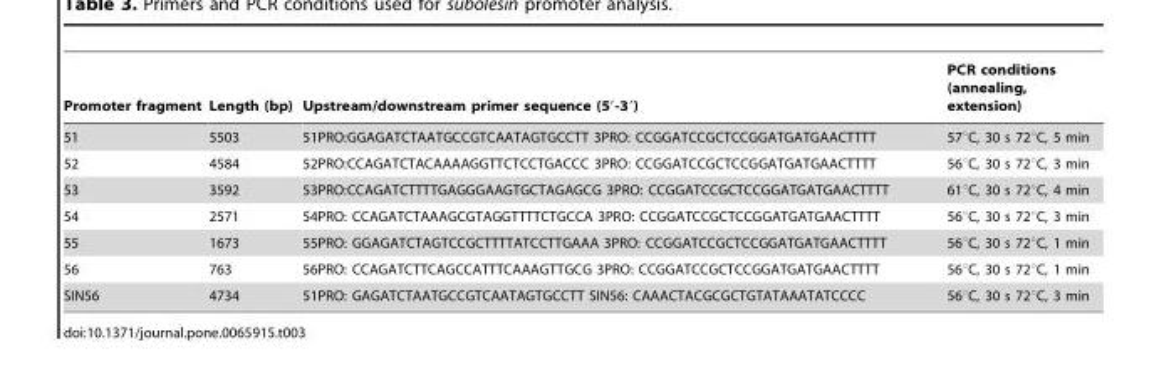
<table><thead><tr><td>Promoter fragment</td><td>Length (bp)</td><td>Upstream/downstream primer sequence (5′-3′)</td><td>PCR conditions (annealing, extension)</td></tr></thead><tbody><tr><td>51</td><td>5503</td><td>51PRO:GGAGATCTAATGCCGTCAATAGTGCCTT 3PRO: CCGGATCCGCTCCGGATGATGAACTTTT</td><td>57°C, 30 s 72°C, 5 min</td></tr><tr><td>52</td><td>4584</td><td>52PRO:CCAGATCTACAAAAGGTTCTCCTGACCC 3PRO: CCGGATCCGCTCCGGATGATGAACTTTT</td><td>56°C, 30 s 72°C, 3 min</td></tr><tr><td>53</td><td>3592</td><td>53PRO:CCAGATCTTTTGAGGGAAGTGCTAGAGCG 3PRO: CCGGATCCGCTCCGGATGATGAACTTTT</td><td>61°C, 30 s 72°C, 4 min</td></tr><tr><td>54</td><td>2571</td><td>54PRO: CCAGATCTAAAGCGTAGGTTTTCTGCCA 3PRO: CCGGATCCGCTCCGGATGATGAACTTTT</td><td>56°C, 30 s 72°C, 3 min</td></tr><tr><td>55</td><td>1673</td><td>55PRO: GGAGATCTAGTCCGCTTTTATCCTTGAAA 3PRO: CCGGATCCGCTCCGGATGATGAACTTTT</td><td>56°C, 30 s 72°C, 1 min</td></tr><tr><td>56</td><td>763</td><td>56PRO: CCAGATCTTCAGCCATTTCAAAGTTGCG 3PRO: CCGGATCCGCTCCGGATGATGAACTTTT</td><td>56°C, 30 s 72°C, 1 min</td></tr><tr><td>SIN56</td><td>4734</td><td>51PRO: GAGATCTAATGCCGTCAATAGTGCCTT SIN56: CAAACTACGCGCTGTATAAATATCCCC</td><td>56°C, 30 s 72°C, 3 min</td></tr></tbody></table>